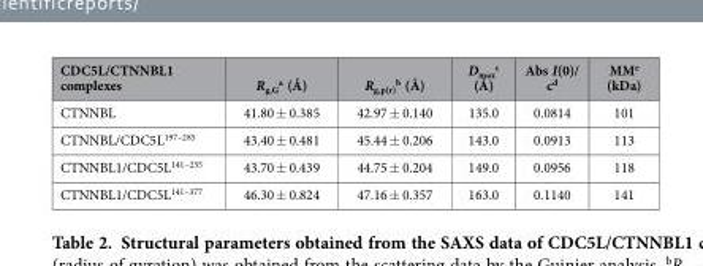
<table><thead><tr><td>CDC5L/CTNNBL1 complexes</td><td>R<sub>g,G</sub> <sup>a</sup> (Å)</td><td>R<sub>g,p(r)</sub> <sup>b</sup> (Å)</td><td>D<sub>max</sub> <sup>c</sup> (Å)</td><td>Abs I(0)/ c<sup>d</sup></td><td>MM<sup>e</sup> (kDa)</td></tr></thead><tbody><tr><td>CTNNBL</td><td>41.80 ± 0.385</td><td>42.97 ± 0.140</td><td>135.0</td><td>0.0814</td><td>101</td></tr><tr><td>CTNNBL/CDC5L<sup>197–285</sup></td><td>43.40 ± 0.481</td><td>45.44 ± 0.206</td><td>143.0</td><td>0.0913</td><td>113</td></tr><tr><td>CTNNBL1/CDC5L<sup>141–235</sup></td><td>43.70 ± 0.439</td><td>44.75 ± 0.204</td><td>149.0</td><td>0.0956</td><td>118</td></tr><tr><td>CTNNBL1/CDC5L<sup>141–377</sup></td><td>46.30 ± 0.824</td><td>47.16 ± 0.357</td><td>163.0</td><td>0.1140</td><td>141</td></tr></tbody></table>